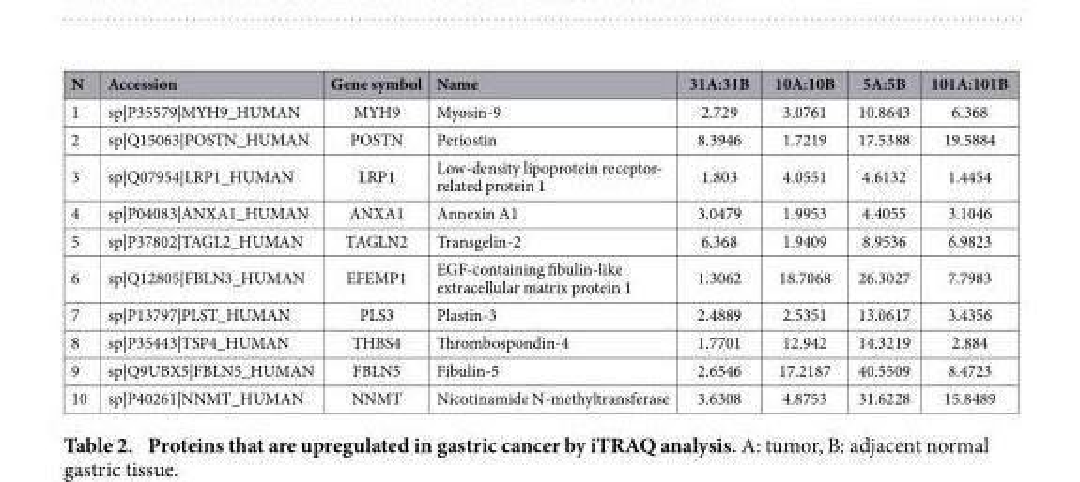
<table><thead><tr><td>N</td><td>Accession</td><td>Gene symbol</td><td>Name</td><td>31A:31B</td><td>10A:10B</td><td>5A:5B</td><td>101A:101B</td></tr></thead><tbody><tr><td>1</td><td>sp|P35579|MYH9_HUMAN</td><td>MYH9</td><td>Myosin-9</td><td>2.729</td><td>3.0761</td><td>10.8643</td><td>6.368</td></tr><tr><td>2</td><td>sp|Q15063|POSTN_HUMAN</td><td>POSTN</td><td>Periostin</td><td>8.3946</td><td>1.7219</td><td>17.5388</td><td>19.5884</td></tr><tr><td>3</td><td>sp|Q07954|LRP1_HUMAN</td><td>LRP1</td><td>Low-density lipoprotein receptor- related protein 1</td><td>1.803</td><td>4.0551</td><td>4.6132</td><td>1.4454</td></tr><tr><td>4</td><td>sp|P04083|ANXA1_HUMAN</td><td>ANXA1</td><td>Annexin A1</td><td>3.0479</td><td>1.9953</td><td>4.4055</td><td>3.1046</td></tr><tr><td>5</td><td>sp|P37802|TAGL2_HUMAN</td><td>TAGLN2</td><td>Transgelin-2</td><td>6.368</td><td>1.9409</td><td>8.9536</td><td>6.9823</td></tr><tr><td>6</td><td>sp|Q12805|FBLN3_HUMAN</td><td>EFEMP1</td><td>EGF-containing fibulin-like extracellular matrix protein 1</td><td>1.3062</td><td>18.7068</td><td>26.3027</td><td>7.7983</td></tr><tr><td>7</td><td>sp|P13797|PLST_HUMAN</td><td>PLS3</td><td>Plastin-3</td><td>2.4889</td><td>2.5351</td><td>13.0617</td><td>3.4356</td></tr><tr><td>8</td><td>sp|P35443|TSP4_HUMAN</td><td>THBS4</td><td>Thrombospondin-4</td><td>1.7701</td><td>12.942</td><td>14.3219</td><td>2.884</td></tr><tr><td>9</td><td>sp|Q9UBX5|FBLN5_HUMAN</td><td>FBLN5</td><td>Fibulin-5</td><td>2.6546</td><td>17.2187</td><td>40.5509</td><td>8.4723</td></tr><tr><td>10</td><td>sp|P40261|NNMT_HUMAN</td><td>NNMT</td><td>Nicotinamide N-methyltransferase</td><td>3.6308</td><td>4.8753</td><td>31.6228</td><td>15.8489</td></tr></tbody></table>